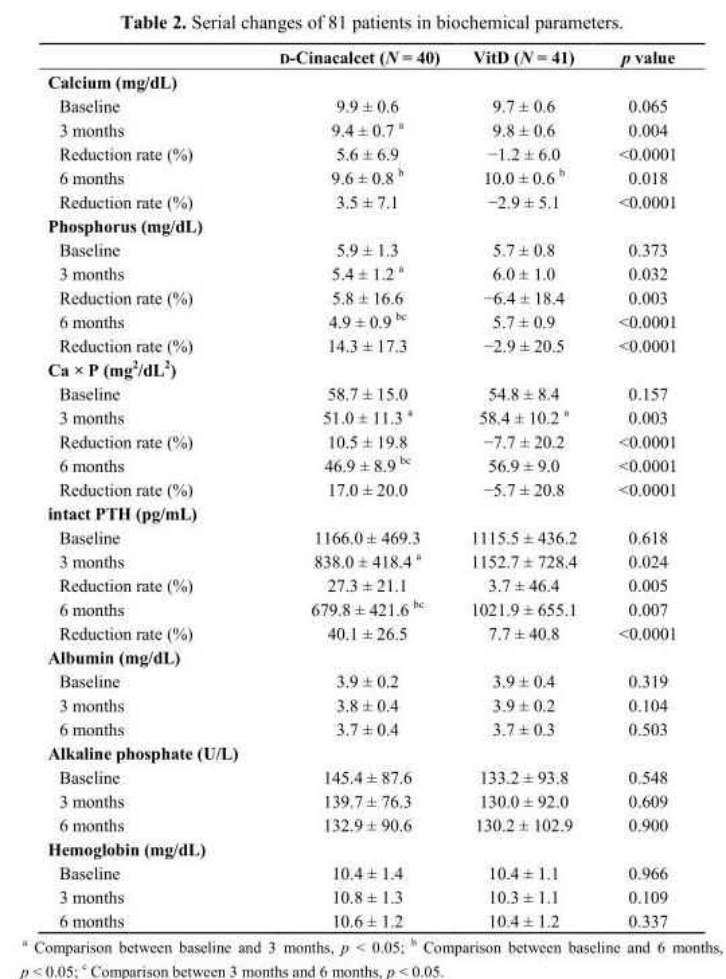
<table><thead><tr><td></td><td>D-Cinacalcet (N = 40)</td><td>VitD (N = 41)</td><td>p value</td></tr></thead><tbody><tr><td colspan="4">Calcium (mg/dL)</td></tr><tr><td>Baseline</td><td>9.9 ± 0.6</td><td>9.7 ± 0.6</td><td>0.065</td></tr><tr><td>3 months</td><td>9.4 ± 0.7 <sup>a</sup></td><td>9.8 ± 0.6</td><td>0.004</td></tr><tr><td>Reduction rate (%)</td><td>5.6 ± 6.9</td><td>−1.2 ± 6.0</td><td>&lt;0.0001</td></tr><tr><td>6 months</td><td>9.6 ± 0.8 <sup>b</sup></td><td>10.0 ± 0.6 <sup>b</sup></td><td>0.018</td></tr><tr><td>Reduction rate (%)</td><td>3.5 ± 7.1</td><td>−2.9 ± 5.1</td><td>&lt;0.0001</td></tr><tr><td colspan="4">Phosphorus (mg/dL)</td></tr><tr><td>Baseline</td><td>5.9 ± 1.3</td><td>5.7 ± 0.8</td><td>0.373</td></tr><tr><td>3 months</td><td>5.4 ± 1.2 <sup>a</sup></td><td>6.0 ± 1.0</td><td>0.032</td></tr><tr><td>Reduction rate (%)</td><td>5.8 ± 16.6</td><td>−6.4 ± 18.4</td><td>0.003</td></tr><tr><td>6 months</td><td>4.9 ± 0.9 <sup>bc</sup></td><td>5.7 ± 0.9</td><td>&lt;0.0001</td></tr><tr><td>Reduction rate (%)</td><td>14.3 ± 17.3</td><td>−2.9 ± 20.5</td><td>&lt;0.0001</td></tr><tr><td colspan="4">Ca × P (mg<sup>2</sup>/dL<sup>2</sup>)</td></tr><tr><td>Baseline</td><td>58.7 ± 15.0</td><td>54.8 ± 8.4</td><td>0.157</td></tr><tr><td>3 months</td><td>51.0 ± 11.3 <sup>a</sup></td><td>58.4 ± 10.2 <sup>a</sup></td><td>0.003</td></tr><tr><td>Reduction rate (%)</td><td>10.5 ± 19.8</td><td>−7.7 ± 20.2</td><td>&lt;0.0001</td></tr><tr><td>6 months</td><td>46.9 ± 8.9 <sup>bc</sup></td><td>56.9 ± 9.0</td><td>&lt;0.0001</td></tr><tr><td>Reduction rate (%)</td><td>17.0 ± 20.0</td><td>−5.7 ± 20.8</td><td>&lt;0.0001</td></tr><tr><td colspan="4">intact PTH (pg/mL)</td></tr><tr><td>Baseline</td><td>1166.0 ± 469.3</td><td>1115.5 ± 436.2</td><td>0.618</td></tr><tr><td>3 months</td><td>838.0 ± 418.4 <sup>a</sup></td><td>1152.7 ± 728.4</td><td>0.024</td></tr><tr><td>Reduction rate (%)</td><td>27.3 ± 21.1</td><td>3.7 ± 46.4</td><td>0.005</td></tr><tr><td>6 months</td><td>679.8 ± 421.6 <sup>bc</sup></td><td>1021.9 ± 655.1</td><td>0.007</td></tr><tr><td>Reduction rate (%)</td><td>40.1 ± 26.5</td><td>7.7 ± 40.8</td><td>&lt;0.0001</td></tr><tr><td colspan="4">Albumin (mg/dL)</td></tr><tr><td>Baseline</td><td>3.9 ± 0.2</td><td>3.9 ± 0.4</td><td>0.319</td></tr><tr><td>3 months</td><td>3.8 ± 0.4</td><td>3.9 ± 0.2</td><td>0.104</td></tr><tr><td>6 months</td><td>3.7 ± 0.4</td><td>3.7 ± 0.3</td><td>0.503</td></tr><tr><td colspan="4">Alkaline phosphate (U/L)</td></tr><tr><td>Baseline</td><td>145.4 ± 87.6</td><td>133.2 ± 93.8</td><td>0.548</td></tr><tr><td>3 months</td><td>139.7 ± 76.3</td><td>130.0 ± 92.0</td><td>0.609</td></tr><tr><td>6 months</td><td>132.9 ± 90.6</td><td>130.2 ± 102.9</td><td>0.900</td></tr><tr><td colspan="4">Hemoglobin (mg/dL)</td></tr><tr><td>Baseline</td><td>10.4 ± 1.4</td><td>10.4 ± 1.1</td><td>0.966</td></tr><tr><td>3 months</td><td>10.8 ± 1.3</td><td>10.3 ± 1.1</td><td>0.109</td></tr><tr><td>6 months</td><td>10.6 ± 1.2</td><td>10.4 ± 1.2</td><td>0.337</td></tr></tbody></table>